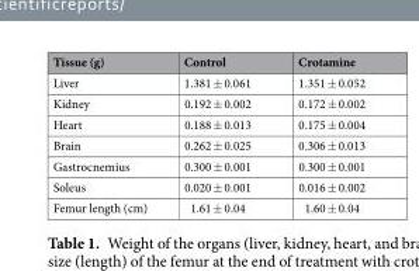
<table><thead><tr><td>Tissue (g)</td><td>Control</td><td>Crotamine</td></tr></thead><tbody><tr><td>Liver</td><td>1.381 ± 0.061</td><td>1.351 ± 0.052</td></tr><tr><td>Kidney</td><td>0.192 ± 0.002</td><td>0.172 ± 0.002</td></tr><tr><td>Heart</td><td>0.188 ± 0.013</td><td>0.175 ± 0.004</td></tr><tr><td>Brain</td><td>0.262 ± 0.025</td><td>0.306 ± 0.013</td></tr><tr><td>Gastrocnemius</td><td>0.300 ± 0.001</td><td>0.300 ± 0.001</td></tr><tr><td>Soleus</td><td>0.020 ± 0.001</td><td>0.016 ± 0.002</td></tr><tr><td>Femur length (cm)</td><td>1.61 ± 0.04</td><td>1.60 ± 0.04</td></tr></tbody></table>